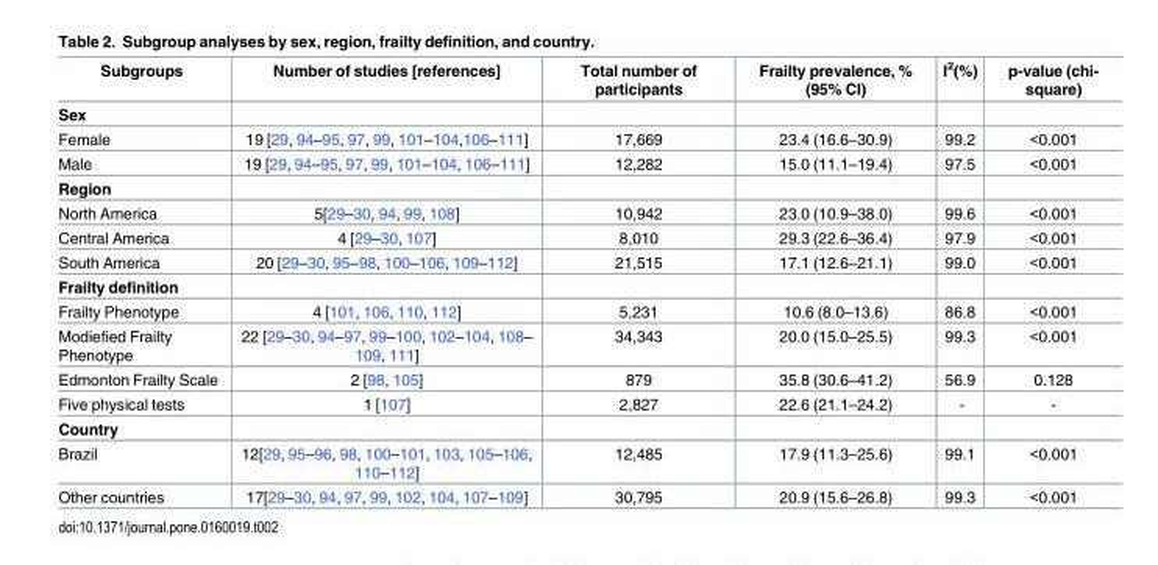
<table><thead><tr><td>Subgroups</td><td>Number of studies [references]</td><td>Total number of participants</td><td>Frailty prevalence, % (95% CI)</td><td>I<sup>2</sup>(%)</td><td>p-value (chi- square)</td></tr></thead><tbody><tr><td colspan="6">Sex</td></tr><tr><td>Female</td><td>19 [29, 94–95, 97, 99, 101–104,106–111]</td><td>17,669</td><td>23.4 (16.6–30.9)</td><td>99.2</td><td>&lt;0.001</td></tr><tr><td>Male</td><td>19 [29, 94–95, 97, 99, 101–104, 106–111]</td><td>12,282</td><td>15.0 (11.1–19.4)</td><td>97.5</td><td>&lt;0.001</td></tr><tr><td colspan="6">Region</td></tr><tr><td>North America</td><td>5[29–30, 94, 99, 108]</td><td>10,942</td><td>23.0 (10.9–38.0)</td><td>99.6</td><td>&lt;0.001</td></tr><tr><td>Central America</td><td>4 [29–30, 107]</td><td>8,010</td><td>29.3 (22.6–36.4)</td><td>97.9</td><td>&lt;0.001</td></tr><tr><td>South America</td><td>20 [29–30, 95–98, 100–106, 109–112]</td><td>21,515</td><td>17.1 (12.6–21.1)</td><td>99.0</td><td>&lt;0.001</td></tr><tr><td colspan="6">Frailty definition</td></tr><tr><td>Frailty Phenotype</td><td>4 [101, 106, 110, 112]</td><td>5,231</td><td>10.6 (8.0–13.6)</td><td>86.8</td><td>&lt;0.001</td></tr><tr><td>Modiefied Frailty Phenotype</td><td>22 [29–30, 94–97, 99–100, 102–104, 108– 109, 111]</td><td>34,343</td><td>20.0 (15.0–25.5)</td><td>99.3</td><td>&lt;0.001</td></tr><tr><td>Edmonton Frailty Scale</td><td>2 [98, 105]</td><td>879</td><td>35.8 (30.6–41.2)</td><td>56.9</td><td>0.128</td></tr><tr><td>Five physical tests</td><td>1 [107]</td><td>2,827</td><td>22.6 (21.1–24.2)</td><td>-</td><td>-</td></tr><tr><td colspan="6">Country</td></tr><tr><td>Brazil</td><td>12[29, 95–96, 98, 100–101, 103, 105–106, 110–112]</td><td>12,485</td><td>17.9 (11.3–25.6)</td><td>99.1</td><td>&lt;0.001</td></tr><tr><td>Other countries</td><td>17[29–30, 94, 97, 99, 102, 104, 107–109]</td><td>30,795</td><td>20.9 (15.6–26.8)</td><td>99.3</td><td>&lt;0.001</td></tr></tbody></table>